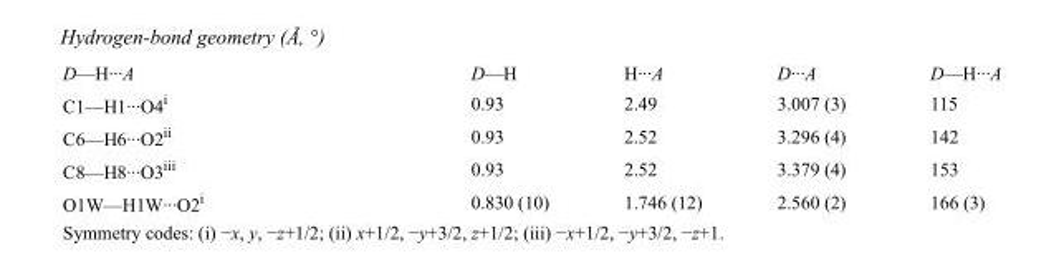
<table><tbody><tr><td>D—H···A</td><td>D—H</td><td>H···A</td><td>D···A</td><td>D—H···A</td></tr><tr><td>C1—H1···O4<sup>i</sup></td><td>0.93</td><td>2.49</td><td>3.007 (3)</td><td>115</td></tr><tr><td>C6—H6···O2<sup>ii</sup></td><td>0.93</td><td>2.52</td><td>3.296 (4)</td><td>142</td></tr><tr><td>C8—H8···O3<sup>iii</sup></td><td>0.93</td><td>2.52</td><td>3.379 (4)</td><td>153</td></tr><tr><td>O1W—H1W···O2<sup>i</sup></td><td>0.830 (10)</td><td>1.746 (12)</td><td>2.560 (2)</td><td>166 (3)</td></tr></tbody></table>